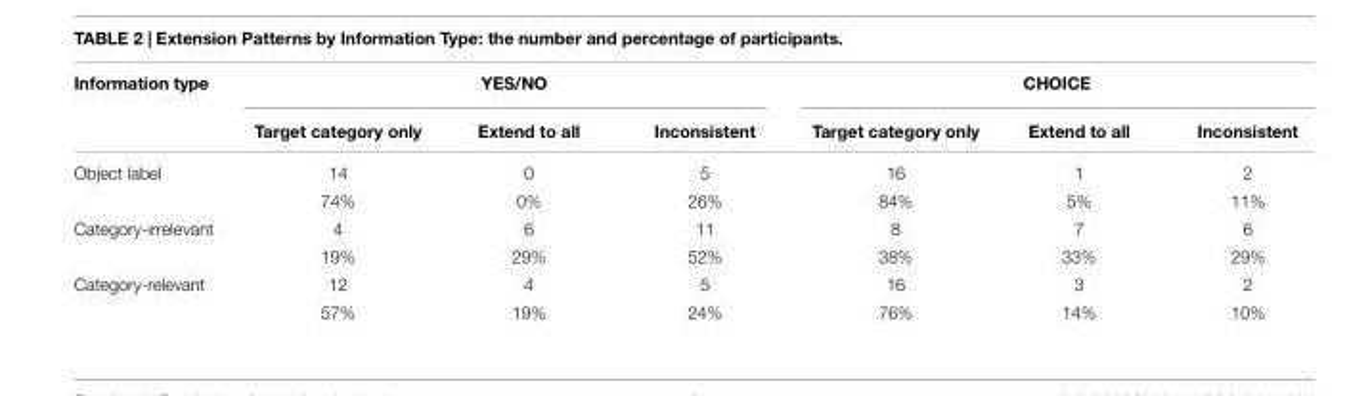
<table><thead><tr><td rowspan="2">Information type</td><td colspan="3">YES/NO</td><td colspan="3">CHOICE</td></tr><tr><td>Target category only</td><td>Extend to all</td><td>Inconsistent</td><td>Target category only</td><td>Extend to all</td><td>Inconsistent</td></tr></thead><tbody><tr><td rowspan="2">Object label</td><td>14</td><td>0</td><td>5</td><td>16</td><td>1</td><td>2</td></tr><tr><td>74%</td><td>0%</td><td>26%</td><td>84%</td><td>5%</td><td>11%</td></tr><tr><td rowspan="2">Category-irrelevant</td><td>4</td><td>6</td><td>11</td><td>8</td><td>7</td><td>6</td></tr><tr><td>19%</td><td>29%</td><td>52%</td><td>38%</td><td>33%</td><td>29%</td></tr><tr><td rowspan="2">Category-relevant</td><td>12</td><td>4</td><td>5</td><td>16</td><td>3</td><td>2</td></tr><tr><td>57%</td><td>19%</td><td>24%</td><td>76%</td><td>14%</td><td>10%</td></tr></tbody></table>